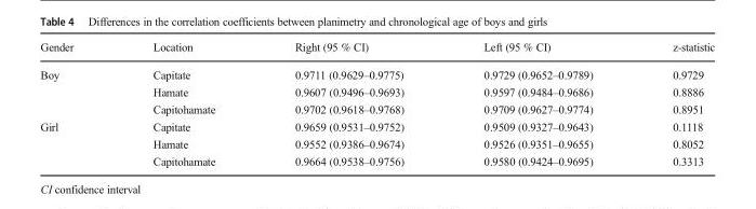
<table><thead><tr><td>Gender</td><td>Location</td><td>Right (95 % CI)</td><td>Left (95 % CI)</td><td>z-statistic</td></tr></thead><tbody><tr><td rowspan="3">Boy</td><td>Capitate</td><td>0.9711 (0.9629–0.9775)</td><td>0.9729 (0.9652–0.9789)</td><td>0.9729</td></tr><tr><td>Hamate</td><td>0.9607 (0.9496–0.9693)</td><td>0.9597 (0.9484–0.9686)</td><td>0.8886</td></tr><tr><td>Capitohamate</td><td>0.9702 (0.9618–0.9768)</td><td>0.9709 (0.9627–0.9774)</td><td>0.8951</td></tr><tr><td rowspan="3">Girl</td><td>Capitate</td><td>0.9659 (0.9531–0.9752)</td><td>0.9509 (0.9327–0.9643)</td><td>0.1118</td></tr><tr><td>Hamate</td><td>0.9552 (0.9386–0.9674)</td><td>0.9526 (0.9351–0.9655)</td><td>0.8052</td></tr><tr><td>Capitohamate</td><td>0.9664 (0.9538–0.9756)</td><td>0.9580 (0.9424–0.9695)</td><td>0.3313</td></tr></tbody></table>